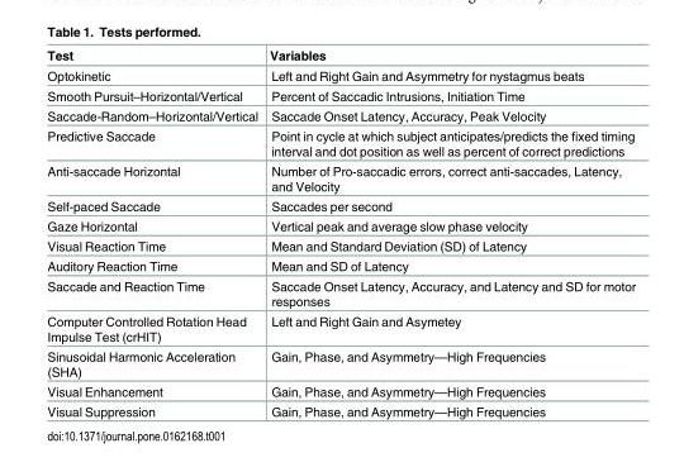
<table><thead><tr><td>Test</td><td>Variables</td></tr></thead><tbody><tr><td>Optokinetic</td><td>Left and Right Gain and Asymmetry for nystagmus beats</td></tr><tr><td>Smooth Pursuit–Horizontal/Vertical</td><td>Percent of Saccadic Intrusions, Initiation Time</td></tr><tr><td>Saccade-Random–Horizontal/Vertical</td><td>Saccade Onset Latency, Accuracy, Peak Velocity</td></tr><tr><td>Predictive Saccade</td><td>Point in cycle at which subject anticipates/predicts the fixed timing interval and dot position as well as percent of correct predictions</td></tr><tr><td>Anti-saccade Horizontal</td><td>Number of Pro-saccadic errors, correct anti-saccades, Latency, and Velocity</td></tr><tr><td>Self-paced Saccade</td><td>Saccades per second</td></tr><tr><td>Gaze Horizontal</td><td>Vertical peak and average slow phase velocity</td></tr><tr><td>Visual Reaction Time</td><td>Mean and Standard Deviation (SD) of Latency</td></tr><tr><td>Auditory Reaction Time</td><td>Mean and SD of Latency</td></tr><tr><td>Saccade and Reaction Time</td><td>Saccade Onset Latency, Accuracy, and Latency and SD for motor responses</td></tr><tr><td>Computer Controlled Rotation Head Impulse Test (crHIT)</td><td>Left and Right Gain and Asymetey</td></tr><tr><td>Sinusoidal Harmonic Acceleration (SHA)</td><td>Gain, Phase, and Asymmetry—High Frequencies</td></tr><tr><td>Visual Enhancement</td><td>Gain, Phase, and Asymmetry—High Frequencies</td></tr><tr><td>Visual Suppression</td><td>Gain, Phase, and Asymmetry—High Frequencies</td></tr></tbody></table>